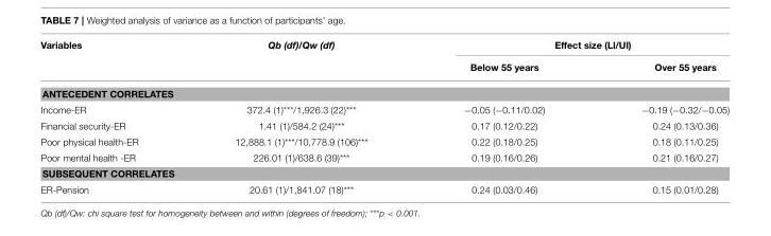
<table><thead><tr><td rowspan="2">Variables</td><td rowspan="2">Qb (df)/Qw (df)</td><td colspan="2">Effect size (Ll/Ul)</td></tr><tr><td>Below 55 years</td><td>Over 55 years</td></tr></thead><tbody><tr><td colspan="4">ANTECEDENT CORRELATES</td></tr><tr><td>Income-ER</td><td>372.4 (1)***/1,926.3 (22)***</td><td>−0.05 (−0.11/0.02)</td><td>−0.19 (−0.32/−0.05)</td></tr><tr><td>Financial security-ER</td><td>1.41 (1)/584.2 (24)***</td><td>0.17 (0.12/0.22)</td><td>0.24 (0.13/0.36)</td></tr><tr><td>Poor physical health-ER</td><td>12,888.1 (1)***/10,778.9 (106)***</td><td>0.22 (0.18/0.25)</td><td>0.18 (0.11/0.25)</td></tr><tr><td>Poor mental health -ER</td><td>226.01 (1)/638.6 (39)***</td><td>0.19 (0.16/0.26)</td><td>0.21 (0.16/0.27)</td></tr><tr><td colspan="4">SUBSEQUENT CORRELATES</td></tr><tr><td>ER-Pension</td><td>20.61 (1)/1,841.07 (18)***</td><td>0.24 (0.03/0.46)</td><td>0.15 (0.01/0.28)</td></tr></tbody></table>